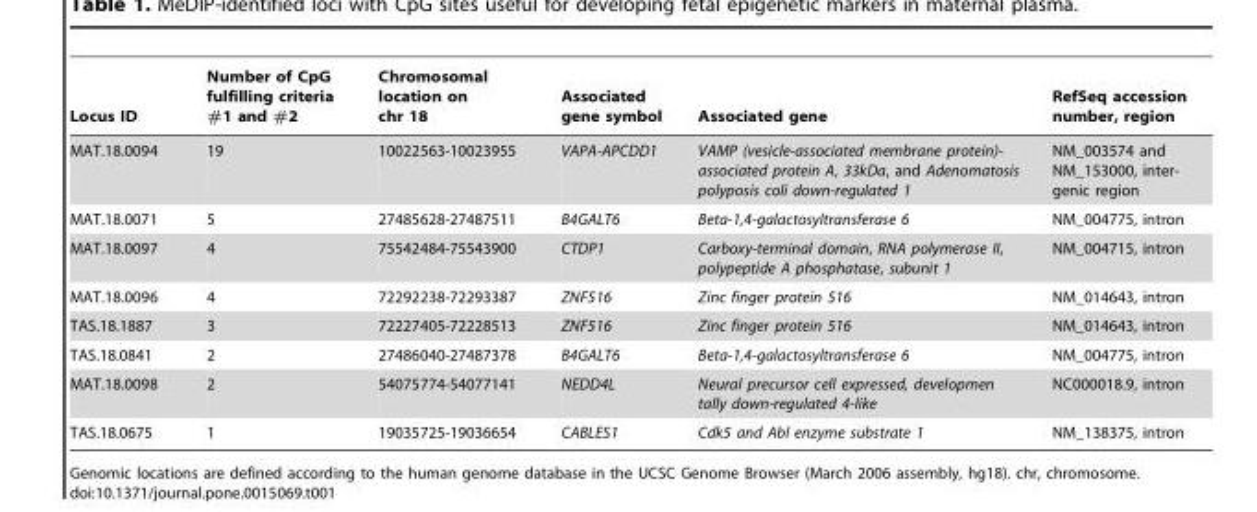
<table><thead><tr><td>Locus ID</td><td>Number of CpG fulfilling criteria #1 and #2</td><td>Chromosomal location on chr 18</td><td>Associated gene symbol</td><td>Associated gene</td><td>RefSeq accession number, region</td></tr></thead><tbody><tr><td>MAT.18.0094</td><td>19</td><td>10022563-10023955</td><td>VAPA-APCDD1</td><td>VAMP (vesicle-associated membrane protein)- associated protein A, 33kDa, and Adenomatosis polyposis coli down-regulated 1</td><td>NM_003574 and NM_153000, inter- genic region</td></tr><tr><td>MAT.18.0071</td><td>5</td><td>27485628-27487511</td><td>B4GALT6</td><td>Beta-1,4-galactosyltransferase 6</td><td>NM_004775, intron</td></tr><tr><td>MAT.18.0097</td><td>4</td><td>75542484-75543900</td><td>CTDP1</td><td>Carboxy-terminal domain, RNA polymerase II, polypeptide A phosphatase, subunit 1</td><td>NM_004715, intron</td></tr><tr><td>MAT.18.0096</td><td>4</td><td>72292238-72293387</td><td>ZNF516</td><td>Zinc finger protein 516</td><td>NM_014643, intron</td></tr><tr><td>TAS.18.1887</td><td>3</td><td>72227405-72228513</td><td>ZNF516</td><td>Zinc finger protein 516</td><td>NM_014643, intron</td></tr><tr><td>TAS.18.0841</td><td>2</td><td>27486040-27487378</td><td>B4GALT6</td><td>Beta-1,4-galactosyltransferase 6</td><td>NM_004775, intron</td></tr><tr><td>MAT.18.0098</td><td>2</td><td>54075774-54077141</td><td>NEDD4L</td><td>Neural precursor cell expressed, developmen tally down-regulated 4-like</td><td>NC000018.9, intron</td></tr><tr><td>TAS.18.0675</td><td>1</td><td>19035725-19036654</td><td>CABLES1</td><td>Cdk5 and Abl enzyme substrate 1</td><td>NM_138375, intron</td></tr></tbody></table>